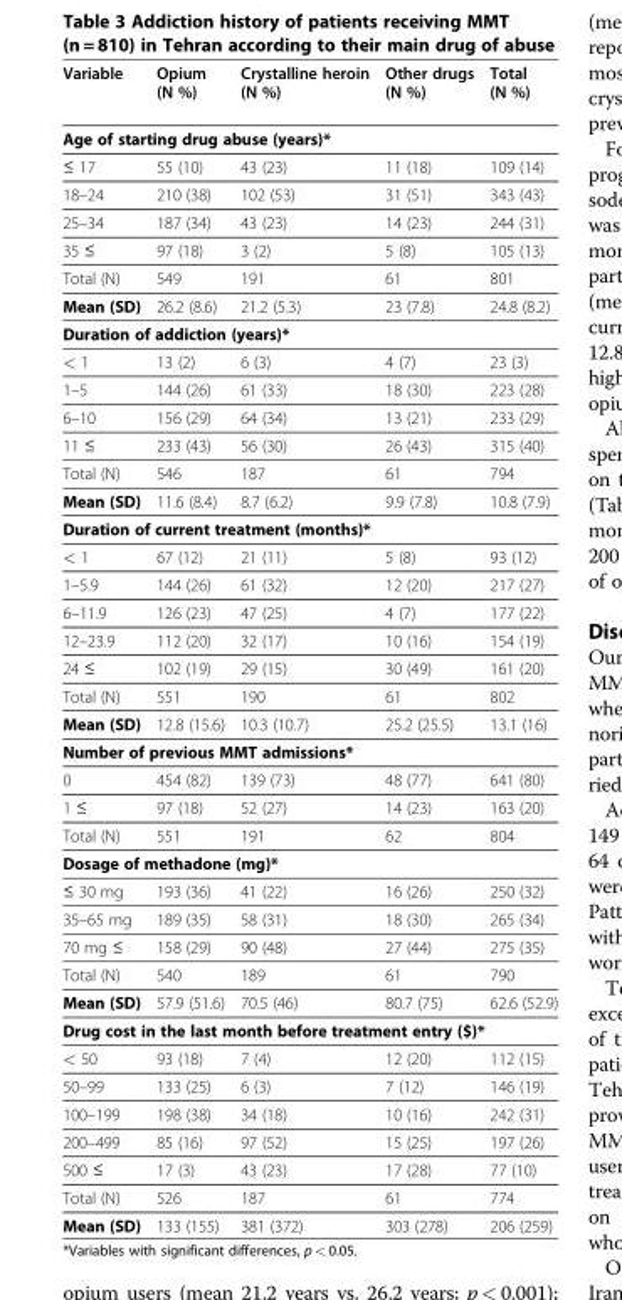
<table><thead><tr><td>Variable</td><td>Opium (N %)</td><td>Crystalline heroin (N %)</td><td>Other drugs (N %)</td><td>Total (N %)</td></tr></thead><tbody><tr><td colspan="5">Age of starting drug abuse (years)*</td></tr><tr><td>≤ 17</td><td>55 (10)</td><td>43 (23)</td><td>11 (18)</td><td>109 (14)</td></tr><tr><td>18–24</td><td>210 (38)</td><td>102 (53)</td><td>31 (51)</td><td>343 (43)</td></tr><tr><td>25–34</td><td>187 (34)</td><td>43 (23)</td><td>14 (23)</td><td>244 (31)</td></tr><tr><td>35 ≤</td><td>97 (18)</td><td>3 (2)</td><td>5 (8)</td><td>105 (13)</td></tr><tr><td>Total (N)</td><td>549</td><td>191</td><td>61</td><td>801</td></tr><tr><td>Mean (SD)</td><td>26.2 (8.6)</td><td>21.2 (5.3)</td><td>23 (7.8)</td><td>24.8 (8.2)</td></tr><tr><td colspan="5">Duration of addiction (years)*</td></tr><tr><td>&lt; 1</td><td>13 (2)</td><td>6 (3)</td><td>4 (7)</td><td>23 (3)</td></tr><tr><td>1–5</td><td>144 (26)</td><td>61 (33)</td><td>18 (30)</td><td>223 (28)</td></tr><tr><td>6–10</td><td>156 (29)</td><td>64 (34)</td><td>13 (21)</td><td>233 (29)</td></tr><tr><td>11 ≤</td><td>233 (43)</td><td>56 (30)</td><td>26 (43)</td><td>315 (40)</td></tr><tr><td>Total (N)</td><td>546</td><td>187</td><td>61</td><td>794</td></tr><tr><td>Mean (SD)</td><td>11.6 (8.4)</td><td>8.7 (6.2)</td><td>9.9 (7.8)</td><td>10.8 (7.9)</td></tr><tr><td colspan="5">Duration of current treatment (months)*</td></tr><tr><td>&lt; 1</td><td>67 (12)</td><td>21 (11)</td><td>5 (8)</td><td>93 (12)</td></tr><tr><td>1–5.9</td><td>144 (26)</td><td>61 (32)</td><td>12 (20)</td><td>217 (27)</td></tr><tr><td>6–11.9</td><td>126 (23)</td><td>47 (25)</td><td>4 (7)</td><td>177 (22)</td></tr><tr><td>12–23.9</td><td>112 (20)</td><td>32 (17)</td><td>10 (16)</td><td>154 (19)</td></tr><tr><td>24 ≤</td><td>102 (19)</td><td>29 (15)</td><td>30 (49)</td><td>161 (20)</td></tr><tr><td>Total (N)</td><td>551</td><td>190</td><td>61</td><td>802</td></tr><tr><td>Mean (SD)</td><td>12.8 (15.6)</td><td>10.3 (10.7)</td><td>25.2 (25.5)</td><td>13.1 (16)</td></tr><tr><td colspan="5">Number of previous MMT admissions*</td></tr><tr><td>0</td><td>454 (82)</td><td>139 (73)</td><td>48 (77)</td><td>641 (80)</td></tr><tr><td>1 ≤</td><td>97 (18)</td><td>52 (27)</td><td>14 (23)</td><td>163 (20)</td></tr><tr><td>Total (N)</td><td>551</td><td>191</td><td>62</td><td>804</td></tr><tr><td colspan="5">Dosage of methadone (mg)*</td></tr><tr><td>≤ 30 mg</td><td>193 (36)</td><td>41 (22)</td><td>16 (26)</td><td>250 (32)</td></tr><tr><td>35–65 mg</td><td>189 (35)</td><td>58 (31)</td><td>18 (30)</td><td>265 (34)</td></tr><tr><td>70 mg ≤</td><td>158 (29)</td><td>90 (48)</td><td>27 (44)</td><td>275 (35)</td></tr><tr><td>Total (N)</td><td>540</td><td>189</td><td>61</td><td>790</td></tr><tr><td>Mean (SD)</td><td>57.9 (51.6)</td><td>70.5 (46)</td><td>80.7 (75)</td><td>62.6 (52.9)</td></tr><tr><td colspan="5">Drug cost in the last month before treatment entry ($)*</td></tr><tr><td>&lt; 50</td><td>93 (18)</td><td>7 (4)</td><td>12 (20)</td><td>112 (15)</td></tr><tr><td>50–99</td><td>133 (25)</td><td>6 (3)</td><td>7 (12)</td><td>146 (19)</td></tr><tr><td>100–199</td><td>198 (38)</td><td>34 (18)</td><td>10 (16)</td><td>242 (31)</td></tr><tr><td>200–499</td><td>85 (16)</td><td>97 (52)</td><td>15 (25)</td><td>197 (26)</td></tr><tr><td>500 ≤</td><td>17 (3)</td><td>43 (23)</td><td>17 (28)</td><td>77 (10)</td></tr><tr><td>Total (N)</td><td>526</td><td>187</td><td>61</td><td>774</td></tr><tr><td>Mean (SD)</td><td>133 (155)</td><td>381 (372)</td><td>303 (278)</td><td>206 (259)</td></tr></tbody></table>